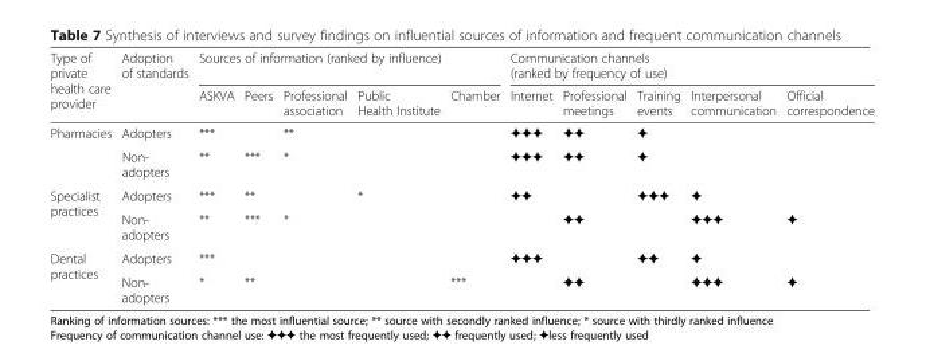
<table><thead><tr><td rowspan="2">Type of private health care provider</td><td rowspan="2">Adoption of standards</td><td colspan="5">Sources of information (ranked by influence)</td><td colspan="5">Communication channels (ranked by frequency of use)</td></tr><tr><td>ASKVA</td><td>Peers</td><td>Professional association</td><td>Public Health Institute</td><td>Chamber</td><td>Internet</td><td>Professional meetings</td><td>Training events</td><td>Interpersonal communication</td><td>Official correspondence</td></tr></thead><tbody><tr><td rowspan="2">Pharmacies</td><td>Adopters</td><td>***</td><td></td><td>**</td><td></td><td></td><td>✦✦✦</td><td>✦✦</td><td>✦</td><td></td><td></td></tr><tr><td>Non- adopters</td><td>**</td><td>***</td><td>*</td><td></td><td></td><td>✦✦✦</td><td>✦✦</td><td>✦</td><td></td><td></td></tr><tr><td rowspan="2">Specialist practices</td><td>Adopters</td><td>***</td><td>**</td><td></td><td>*</td><td></td><td>✦✦</td><td></td><td>✦✦✦</td><td>✦</td><td></td></tr><tr><td>Non- adopters</td><td>**</td><td>***</td><td>*</td><td></td><td></td><td></td><td>✦✦</td><td></td><td>✦✦✦</td><td>✦</td></tr><tr><td rowspan="2">Dental practices</td><td>Adopters</td><td>***</td><td></td><td></td><td></td><td></td><td>✦✦✦</td><td></td><td>✦✦</td><td>✦</td><td></td></tr><tr><td>Non- adopters</td><td>*</td><td>**</td><td></td><td></td><td>***</td><td></td><td>✦✦</td><td></td><td>✦✦✦</td><td>✦</td></tr></tbody></table>